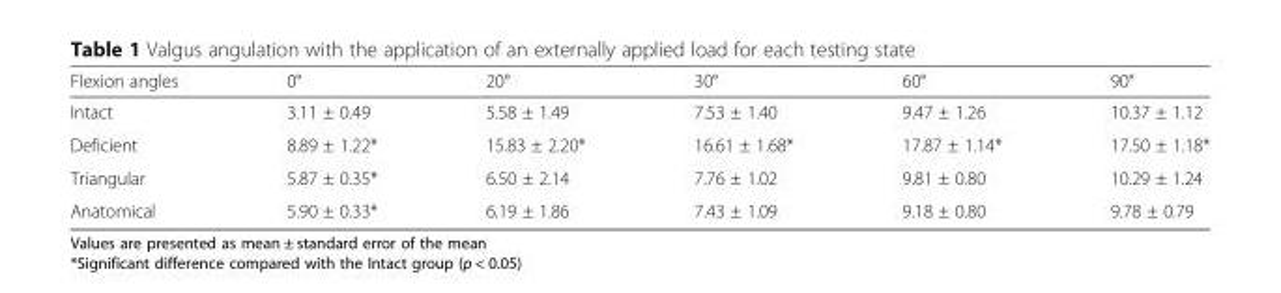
<table><thead><tr><td>Flexion angles</td><td>0°</td><td>20°</td><td>30°</td><td>60°</td><td>90°</td></tr></thead><tbody><tr><td>Intact</td><td>3.11 ± 0.49</td><td>5.58 ± 1.49</td><td>7.53 ± 1.40</td><td>9.47 ± 1.26</td><td>10.37 ± 1.12</td></tr><tr><td>Deficient</td><td>8.89 ± 1.22*</td><td>15.83 ± 2.20*</td><td>16.61 ± 1.68*</td><td>17.87 ± 1.14*</td><td>17.50 ± 1.18*</td></tr><tr><td>Triangular</td><td>5.87 ± 0.35*</td><td>6.50 ± 2.14</td><td>7.76 ± 1.02</td><td>9.81 ± 0.80</td><td>10.29 ± 1.24</td></tr><tr><td>Anatomical</td><td>5.90 ± 0.33*</td><td>6.19 ± 1.86</td><td>7.43 ± 1.09</td><td>9.18 ± 0.80</td><td>9.78 ± 0.79</td></tr></tbody></table>